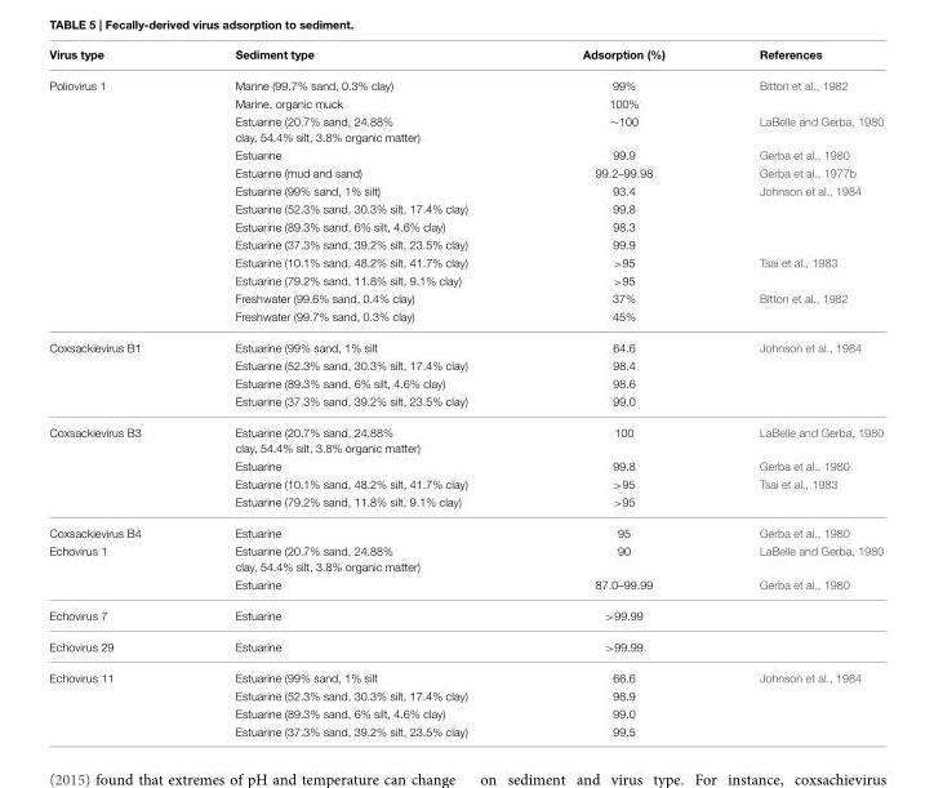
<table><thead><tr><td>Virus type</td><td>Sediment type</td><td>Adsorption (%)</td><td>References</td></tr></thead><tbody><tr><td rowspan="13">Poliovirus 1</td><td>Marine (99.7% sand, 0.3% clay)</td><td>99%</td><td>Bitton et al., 1982</td></tr><tr><td>Marine, organic muck</td><td>100%</td><td></td></tr><tr><td>Estuarine (20.7% sand, 24.88% clay, 54.4% silt, 3.8% organic matter)</td><td>∼100</td><td>LaBelle and Gerba, 1980</td></tr><tr><td>Estuarine</td><td>99.9</td><td>Gerba et al., 1980</td></tr><tr><td>Estuarine (mud and sand)</td><td>99.2–99.98</td><td>Gerba et al., 1977b</td></tr><tr><td>Estuarine (99% sand, 1% silt)</td><td>93.4</td><td>Johnson et al., 1984</td></tr><tr><td>Estuarine (52.3% sand, 30.3% silt, 17.4% clay)</td><td>99.8</td><td></td></tr><tr><td>Estuarine (89.3% sand, 6% silt, 4.6% clay)</td><td>98.3</td><td></td></tr><tr><td>Estuarine (37.3% sand, 39.2% silt, 23.5% clay)</td><td>99.9</td><td></td></tr><tr><td>Estuarine (10.1% sand, 48.2% silt, 41.7% clay)</td><td>&gt;95</td><td>Tsai et al., 1983</td></tr><tr><td>Estuarine (79.2% sand, 11.8% silt, 9.1% clay)</td><td>&gt;95</td><td></td></tr><tr><td>Freshwater (99.6% sand, 0.4% clay)</td><td>37%</td><td>Bitton et al., 1982</td></tr><tr><td>Freshwater (99.7% sand, 0.3% clay)</td><td>45%</td><td></td></tr><tr><td rowspan="4">Coxsackievirus B1</td><td>Estuarine (99% sand, 1% silt</td><td>64.6</td><td>Johnson et al., 1984</td></tr><tr><td>Estuarine (52.3% sand, 30.3% silt, 17.4% clay)</td><td>98.4</td><td></td></tr><tr><td>Estuarine (89.3% sand, 6% silt, 4.6% clay)</td><td>98.6</td><td></td></tr><tr><td>Estuarine (37.3% sand, 39.2% silt, 23.5% clay)</td><td>99.0</td><td></td></tr><tr><td rowspan="4">Coxsackievirus B3</td><td>Estuarine (20.7% sand, 24.88% clay, 54.4% silt, 3.8% organic matter)</td><td>100</td><td>LaBelle and Gerba, 1980</td></tr><tr><td>Estuarine</td><td>99.8</td><td>Gerba et al., 1980</td></tr><tr><td>Estuarine (10.1% sand, 48.2% silt, 41.7% clay)</td><td>&gt;95</td><td>Tsai et al., 1983</td></tr><tr><td>Estuarine (79.2% sand, 11.8% silt, 9.1% clay)</td><td>&gt;95</td><td></td></tr><tr><td>Coxsackievirus B4</td><td>Estuarine</td><td>95</td><td>Gerba et al., 1980</td></tr><tr><td rowspan="2">Echovirus 1</td><td>Estuarine (20.7% sand, 24.88% clay, 54.4% silt, 3.8% organic matter)</td><td>90</td><td>LaBelle and Gerba, 1980</td></tr><tr><td>Estuarine</td><td>87.0–99.99</td><td>Gerba et al., 1980</td></tr><tr><td>Echovirus 7</td><td>Estuarine</td><td>&gt;99.99</td><td></td></tr><tr><td>Echovirus 29</td><td>Estuarine</td><td>&gt;99.99</td><td></td></tr><tr><td rowspan="4">Echovirus 11</td><td>Estuarine (99% sand, 1% silt</td><td>66.6</td><td>Johnson et al., 1984</td></tr><tr><td>Estuarine (52.3% sand, 30.3% silt, 17.4% clay)</td><td>98.9</td><td></td></tr><tr><td>Estuarine (89.3% sand, 6% silt, 4.6% clay)</td><td>99.0</td><td></td></tr><tr><td>Estuarine (37.3% sand, 39.2% silt, 23.5% clay)</td><td>99.5</td><td></td></tr></tbody></table>